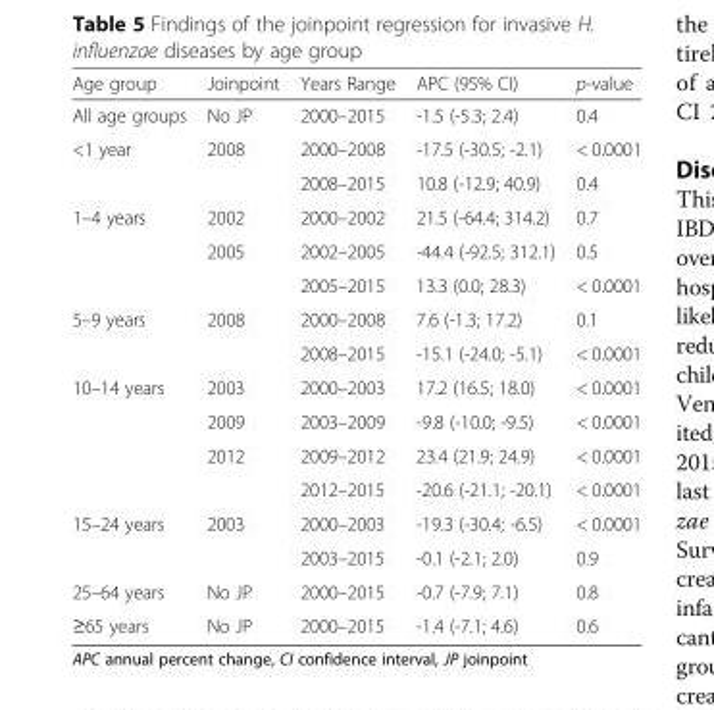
<table><thead><tr><td>Age group</td><td>Joinpoint</td><td>Years Range</td><td>APC (95% CI)</td><td>p-value</td></tr></thead><tbody><tr><td>All age groups</td><td>No JP</td><td>2000–2015</td><td>-1.5 (-5.3; 2.4)</td><td>0.4</td></tr><tr><td rowspan="2">&lt;1 year</td><td>2008</td><td>2000–2008</td><td>-17.5 (-30.5; -2.1)</td><td>&lt; 0.0001</td></tr><tr><td></td><td>2008–2015</td><td>10.8 (-12.9; 40.9)</td><td>0.4</td></tr><tr><td rowspan="3">1–4 years</td><td>2002</td><td>2000–2002</td><td>21.5 (-64.4; 314.2)</td><td>0.7</td></tr><tr><td>2005</td><td>2002–2005</td><td>-44.4 (-92.5; 312.1)</td><td>0.5</td></tr><tr><td></td><td>2005–2015</td><td>13.3 (0.0; 28.3)</td><td>&lt; 0.0001</td></tr><tr><td rowspan="2">5–9 years</td><td>2008</td><td>2000–2008</td><td>7.6 (-1.3; 17.2)</td><td>0.1</td></tr><tr><td></td><td>2008–2015</td><td>-15.1 (-24.0; -5.1)</td><td>&lt; 0.0001</td></tr><tr><td rowspan="4">10–14 years</td><td>2003</td><td>2000–2003</td><td>17.2 (16.5; 18.0)</td><td>&lt; 0.0001</td></tr><tr><td>2009</td><td>2003–2009</td><td>-9.8 (-10.0; -9.5)</td><td>&lt; 0.0001</td></tr><tr><td>2012</td><td>2009–2012</td><td>23.4 (21.9; 24.9)</td><td>&lt; 0.0001</td></tr><tr><td></td><td>2012–2015</td><td>-20.6 (-21.1; -20.1)</td><td>&lt; 0.0001</td></tr><tr><td rowspan="2">15–24 years</td><td>2003</td><td>2000–2003</td><td>-19.3 (-30.4; -6.5)</td><td>&lt; 0.0001</td></tr><tr><td></td><td>2003–2015</td><td>-0.1 (-2.1; 2.0)</td><td>0.9</td></tr><tr><td>25–64 years</td><td>No JP</td><td>2000–2015</td><td>-0.7 (-7.9; 7.1)</td><td>0.8</td></tr><tr><td>≥65 years</td><td>No JP</td><td>2000–2015</td><td>-1.4 (-7.1; 4.6)</td><td>0.6</td></tr></tbody></table>